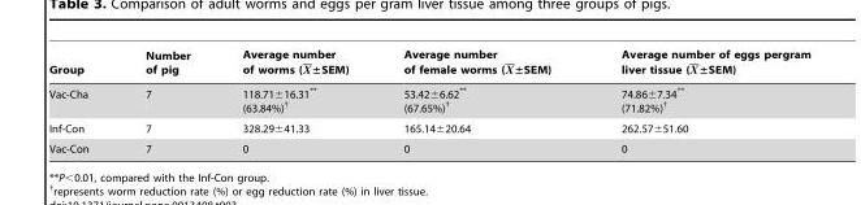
<table><thead><tr><td>Group</td><td>Number of pig</td><td>Average number of worms (X±SEM)</td><td>Average number of female worms (X±SEM)</td><td>Average number of eggs pergram liver tissue (X±SEM)</td></tr></thead><tbody><tr><td>Vac-Cha</td><td>7</td><td>118.71±16.31** (63.84%)†</td><td>53.42±6.62** (67.65%)†</td><td>74.86±7.34** (71.82%)†</td></tr><tr><td>Inf-Con</td><td>7</td><td>328.29±41.33</td><td>165.14±20.64</td><td>262.57±51.60</td></tr><tr><td>Vac-Con</td><td>7</td><td>0</td><td>0</td><td>0</td></tr></tbody></table>